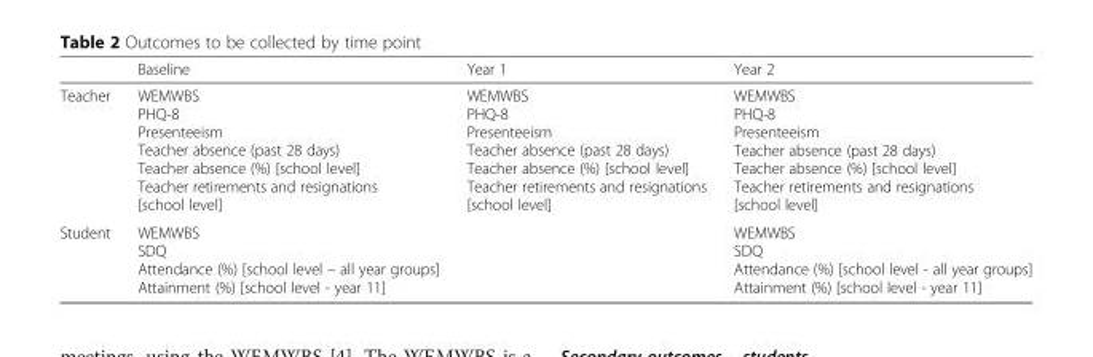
<table><thead><tr><td></td><td>Baseline</td><td>Year 1</td><td>Year 2</td></tr></thead><tbody><tr><td>Teacher</td><td>WEMWBS PHQ-8 Presenteeism Teacher absence (past 28 days) Teacher absence (%) [school level] Teacher retirements and resignations [school level]</td><td>WEMWBS PHQ-8 Presenteeism Teacher absence (past 28 days) Teacher absence (%) [school level] Teacher retirements and resignations [school level]</td><td>WEMWBS PHQ-8 Presenteeism Teacher absence (past 28 days) Teacher absence (%) [school level] Teacher retirements and resignations [school level]</td></tr><tr><td>Student</td><td>WEMWBS SDQ Attendance (%) [school level – all year groups] Attainment (%) [school level - year 11]</td><td></td><td>WEMWBS SDQ Attendance (%) [school level - all year groups] Attainment (%) [school level - year 11]</td></tr></tbody></table>